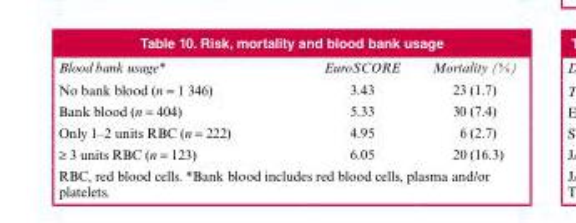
<table><thead><tr><td>Blood bank usage*</td><td>EuroSCORE</td><td>Mortality (%)</td></tr></thead><tbody><tr><td>No bank blood (n = 1 346)</td><td>3.43</td><td>23 (1.7)</td></tr><tr><td>Bank blood (n = 404)</td><td>5.33</td><td>30 (7.4)</td></tr><tr><td>Only 1–2 units RBC (n = 222)</td><td>4.95</td><td>6 (2.7)</td></tr><tr><td>≥ 3 units RBC (n = 123)</td><td>6.05</td><td>20 (16.3)</td></tr></tbody></table>